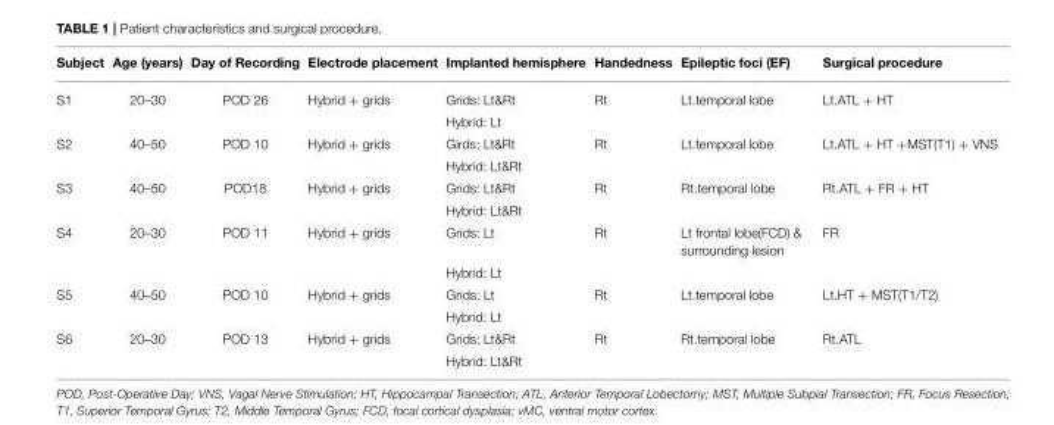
<table><thead><tr><td>Subject</td><td>Age (years)</td><td>Day of Recording</td><td>Electrode placement</td><td>Implanted hemisphere</td><td>Handedness</td><td>Epileptic foci (EF)</td><td>Surgical procedure</td></tr></thead><tbody><tr><td rowspan="2">S1</td><td>20–30</td><td>POD 26</td><td>Hybrid + grids</td><td>Grids: Lt&amp;Rt</td><td>Rt</td><td>Lt.temporal lobe</td><td>Lt.ATL + HT</td></tr><tr><td></td><td></td><td></td><td>Hybrid: Lt</td><td></td><td></td><td></td></tr><tr><td rowspan="2">S2</td><td>40–50</td><td>POD 10</td><td>Hybrid + grids</td><td>Girds: Lt&amp;Rt</td><td>Rt</td><td>Lt.temporal lobe</td><td>Lt.ATL + HT +MST(T1) + VNS</td></tr><tr><td></td><td></td><td></td><td>Hybrid: Lt&amp;Rt</td><td></td><td></td><td></td></tr><tr><td rowspan="2">S3</td><td>40–50</td><td>POD18</td><td>Hybrid + grids</td><td>Grids: Lt&amp;Rt</td><td>Rt</td><td>Rt.temporal lobe</td><td>Rt.ATL + FR + HT</td></tr><tr><td></td><td></td><td></td><td>Hybrid: Lt&amp;Rt</td><td></td><td></td><td></td></tr><tr><td rowspan="2">S4</td><td>20–30</td><td>POD 11</td><td>Hybrid + grids</td><td>Grids: Lt</td><td>Rt</td><td>Lt frontal lobe(FCD) &amp; surrounding lesion</td><td>FR</td></tr><tr><td></td><td></td><td></td><td>Hybrid: Lt</td><td></td><td></td><td></td></tr><tr><td rowspan="2">S5</td><td>40–50</td><td>POD 10</td><td>Hybrid + grids</td><td>Grids: Lt</td><td>Rt</td><td>Lt.temporal lobe</td><td>Lt.HT + MST(T1/T2)</td></tr><tr><td></td><td></td><td></td><td>Hybrid: Lt</td><td></td><td></td><td></td></tr><tr><td rowspan="2">S6</td><td>20–30</td><td>POD 13</td><td>Hybrid + grids</td><td>Grids: Lt&amp;Rt</td><td>Rt</td><td>Rt.temporal lobe</td><td>Rt.ATL</td></tr><tr><td></td><td></td><td></td><td>Hybrid: Lt&amp;Rt</td><td></td><td></td><td></td></tr></tbody></table>